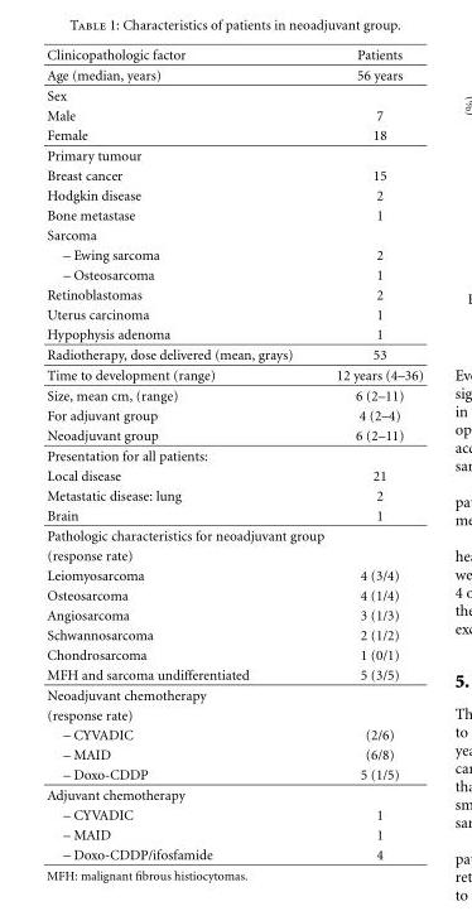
<table><thead><tr><td>Clinicopathologic factor</td><td>Patients</td></tr></thead><tbody><tr><td>Age (median, years)</td><td>56 years</td></tr><tr><td colspan="2">Sex</td></tr><tr><td>Male</td><td>7</td></tr><tr><td>Female</td><td>18</td></tr><tr><td colspan="2">Primary tumour</td></tr><tr><td>Breast cancer</td><td>15</td></tr><tr><td>Hodgkin disease</td><td>2</td></tr><tr><td>Bone metastase</td><td>1</td></tr><tr><td colspan="2">Sarcoma</td></tr><tr><td>– Ewing sarcoma</td><td>2</td></tr><tr><td>– Osteosarcoma</td><td>1</td></tr><tr><td>Retinoblastomas</td><td>2</td></tr><tr><td>Uterus carcinoma</td><td>1</td></tr><tr><td>Hypophysis adenoma</td><td>1</td></tr><tr><td>Radiotherapy, dose delivered (mean, grays)</td><td>53</td></tr><tr><td>Time to development (range)</td><td>12 years (4–36)</td></tr><tr><td>Size, mean cm, (range)</td><td>6 (2–11)</td></tr><tr><td>For adjuvant group</td><td>4 (2–4)</td></tr><tr><td>Neoadjuvant group</td><td>6 (2–11)</td></tr><tr><td colspan="2">Presentation for all patients:</td></tr><tr><td>Local disease</td><td>21</td></tr><tr><td>Metastatic disease: lung</td><td>2</td></tr><tr><td>Brain</td><td>1</td></tr><tr><td colspan="2">Pathologic characteristics for neoadjuvant group</td></tr><tr><td colspan="2">(response rate)</td></tr><tr><td>Leiomyosarcoma</td><td>4 (3/4)</td></tr><tr><td>Osteosarcoma</td><td>4 (1/4)</td></tr><tr><td>Angiosarcoma</td><td>3 (1/3)</td></tr><tr><td>Schwannosarcoma</td><td>2 (1/2)</td></tr><tr><td>Chondrosarcoma</td><td>1 (0/1)</td></tr><tr><td>MFH and sarcoma undifferentiated</td><td>5 (3/5)</td></tr><tr><td colspan="2">Neoadjuvant chemotherapy</td></tr><tr><td colspan="2">(response rate)</td></tr><tr><td>– CYVADIC</td><td>(2/6)</td></tr><tr><td>– MAID</td><td>(6/8)</td></tr><tr><td>– Doxo-CDDP</td><td>5 (1/5)</td></tr><tr><td colspan="2">Adjuvant chemotherapy</td></tr><tr><td>– CYVADIC</td><td>1</td></tr><tr><td>– MAID</td><td>1</td></tr><tr><td>– Doxo-CDDP/ifosfamide</td><td>4</td></tr></tbody></table>